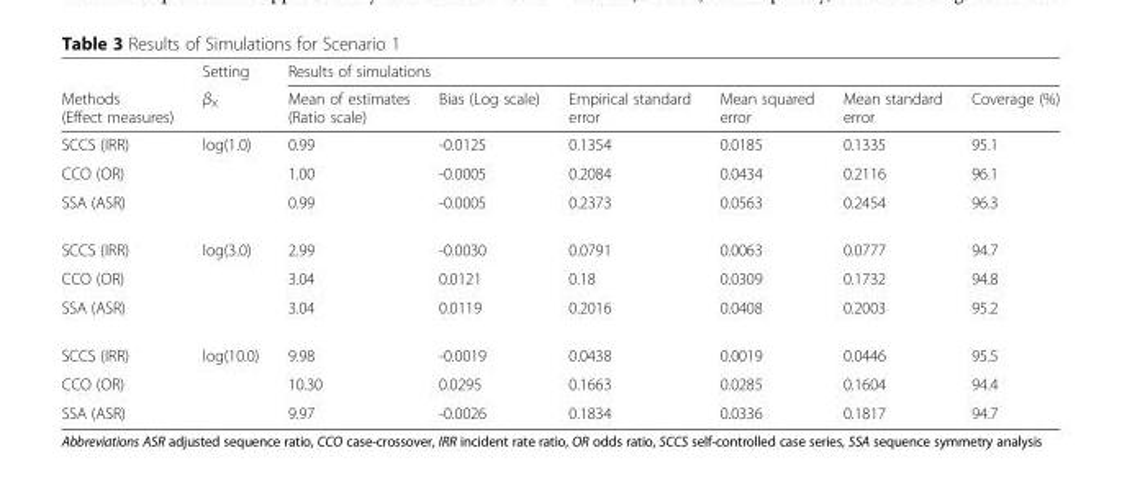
<table><thead><tr><td rowspan="2">Methods (Effect measures)</td><td rowspan="2">Setting β<sub>X</sub></td><td colspan="6">Results of simulations</td></tr><tr><td>Mean of estimates (Ratio scale)</td><td>Bias (Log scale)</td><td>Empirical standard error</td><td>Mean squared error</td><td>Mean standard error</td><td>Coverage (%)</td></tr></thead><tbody><tr><td>SCCS (IRR)</td><td>log(1.0)</td><td>0.99</td><td>-0.0125</td><td>0.1354</td><td>0.0185</td><td>0.1335</td><td>95.1</td></tr><tr><td>CCO (OR)</td><td></td><td>1.00</td><td>-0.0005</td><td>0.2084</td><td>0.0434</td><td>0.2116</td><td>96.1</td></tr><tr><td>SSA (ASR)</td><td></td><td>0.99</td><td>-0.0005</td><td>0.2373</td><td>0.0563</td><td>0.2454</td><td>96.3</td></tr><tr><td>SCCS (IRR)</td><td>log(3.0)</td><td>2.99</td><td>-0.0030</td><td>0.0791</td><td>0.0063</td><td>0.0777</td><td>94.7</td></tr><tr><td>CCO (OR)</td><td></td><td>3.04</td><td>0.0121</td><td>0.18</td><td>0.0309</td><td>0.1732</td><td>94.8</td></tr><tr><td>SSA (ASR)</td><td></td><td>3.04</td><td>0.0119</td><td>0.2016</td><td>0.0408</td><td>0.2003</td><td>95.2</td></tr><tr><td>SCCS (IRR)</td><td>log(10.0)</td><td>9.98</td><td>-0.0019</td><td>0.0438</td><td>0.0019</td><td>0.0446</td><td>95.5</td></tr><tr><td>CCO (OR)</td><td></td><td>10.30</td><td>0.0295</td><td>0.1663</td><td>0.0285</td><td>0.1604</td><td>94.4</td></tr><tr><td>SSA (ASR)</td><td></td><td>9.97</td><td>-0.0026</td><td>0.1834</td><td>0.0336</td><td>0.1817</td><td>94.7</td></tr></tbody></table>